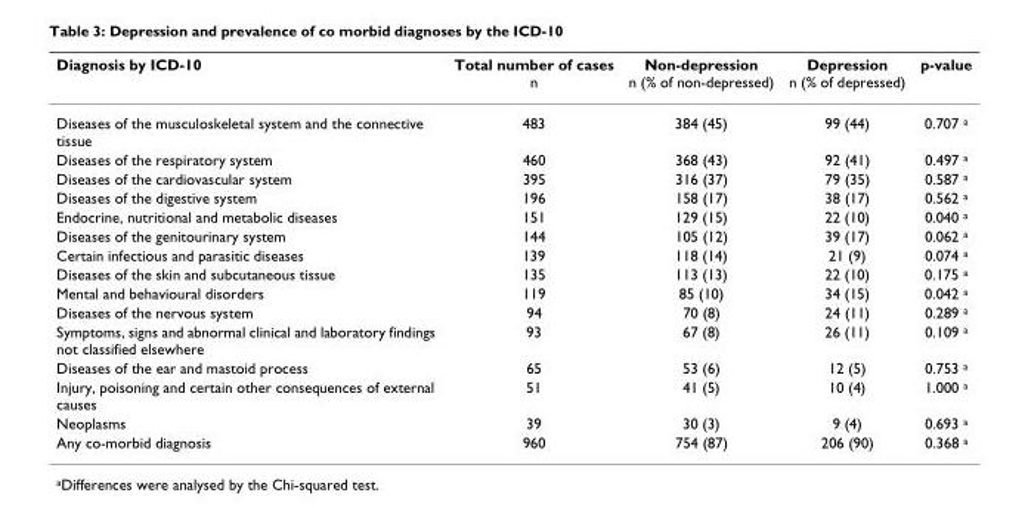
<table><thead><tr><td>Diagnosis by ICD-10</td><td>Total number of cases n</td><td>Non-depression n (% of non-depressed)</td><td>Depression n (% of depressed)</td><td>p-value</td></tr></thead><tbody><tr><td>Diseases of the musculoskeletal system and the connective tissue</td><td>483</td><td>384 (45)</td><td>99 (44)</td><td>0.707 <sup>a</sup></td></tr><tr><td>Diseases of the respiratory system</td><td>460</td><td>368 (43)</td><td>92 (41)</td><td>0.497 <sup>a</sup></td></tr><tr><td>Diseases of the cardiovascular system</td><td>395</td><td>316 (37)</td><td>79 (35)</td><td>0.587 <sup>a</sup></td></tr><tr><td>Diseases of the digestive system</td><td>196</td><td>158 (17)</td><td>38 (17)</td><td>0.562 <sup>a</sup></td></tr><tr><td>Endocrine, nutritional and metabolic diseases</td><td>151</td><td>129 (15)</td><td>22 (10)</td><td>0.040 <sup>a</sup></td></tr><tr><td>Diseases of the genitourinary system</td><td>144</td><td>105 (12)</td><td>39 (17)</td><td>0.062 <sup>a</sup></td></tr><tr><td>Certain infectious and parasitic diseases</td><td>139</td><td>118 (14)</td><td>21 (9)</td><td>0.074 <sup>a</sup></td></tr><tr><td>Diseases of the skin and subcutaneous tissue</td><td>135</td><td>113 (13)</td><td>22 (10)</td><td>0.175 <sup>a</sup></td></tr><tr><td>Mental and behavioural disorders</td><td>119</td><td>85 (10)</td><td>34 (15)</td><td>0.042 <sup>a</sup></td></tr><tr><td>Diseases of the nervous system</td><td>94</td><td>70 (8)</td><td>24 (11)</td><td>0.289 <sup>a</sup></td></tr><tr><td>Symptoms, signs and abnormal clinical and laboratory findings not classified elsewhere</td><td>93</td><td>67 (8)</td><td>26 (11)</td><td>0.109 <sup>a</sup></td></tr><tr><td>Diseases of the ear and mastoid process</td><td>65</td><td>53 (6)</td><td>12 (5)</td><td>0.753 <sup>a</sup></td></tr><tr><td>Injury, poisoning and certain other consequences of external causes</td><td>51</td><td>41 (5)</td><td>10 (4)</td><td>1.000 <sup>a</sup></td></tr><tr><td>Neoplasms</td><td>39</td><td>30 (3)</td><td>9 (4)</td><td>0.693 <sup>a</sup></td></tr><tr><td>Any co-morbid diagnosis</td><td>960</td><td>754 (87)</td><td>206 (90)</td><td>0.368 <sup>a</sup></td></tr></tbody></table>